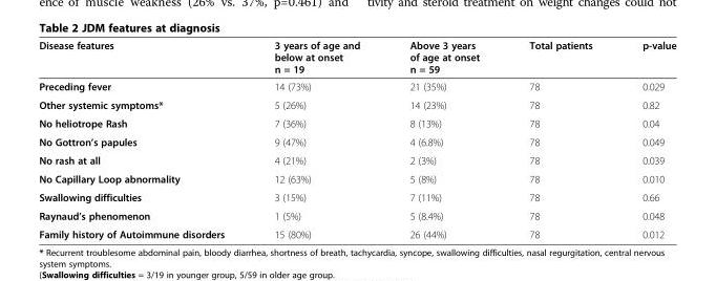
<table><thead><tr><td>Disease features</td><td>3 years of age and below at onset n = 19</td><td>Above 3 years of age at onset n = 59</td><td>Total patients</td><td>p-value</td></tr></thead><tbody><tr><td>Preceding fever</td><td>14 (73%)</td><td>21 (35%)</td><td>78</td><td>0.029</td></tr><tr><td>Other systemic symptoms*</td><td>5 (26%)</td><td>14 (23%)</td><td>78</td><td>0.82</td></tr><tr><td>No heliotrope Rash</td><td>7 (36%)</td><td>8 (13%)</td><td>78</td><td>0.04</td></tr><tr><td>No Gottron’s papules</td><td>9 (47%)</td><td>4 (6.8%)</td><td>78</td><td>0.049</td></tr><tr><td>No rash at all</td><td>4 (21%)</td><td>2 (3%)</td><td>78</td><td>0.039</td></tr><tr><td>No Capillary Loop abnormality</td><td>12 (63%)</td><td>5 (8%)</td><td>78</td><td>0.010</td></tr><tr><td>Swallowing difficulties</td><td>3 (15%)</td><td>7 (11%)</td><td>78</td><td>0.66</td></tr><tr><td>Raynaud’s phenomenon</td><td>1 (5%)</td><td>5 (8.4%)</td><td>78</td><td>0.048</td></tr><tr><td>Family history of Autoimmune disorders</td><td>15 (80%)</td><td>26 (44%)</td><td>78</td><td>0.012</td></tr></tbody></table>